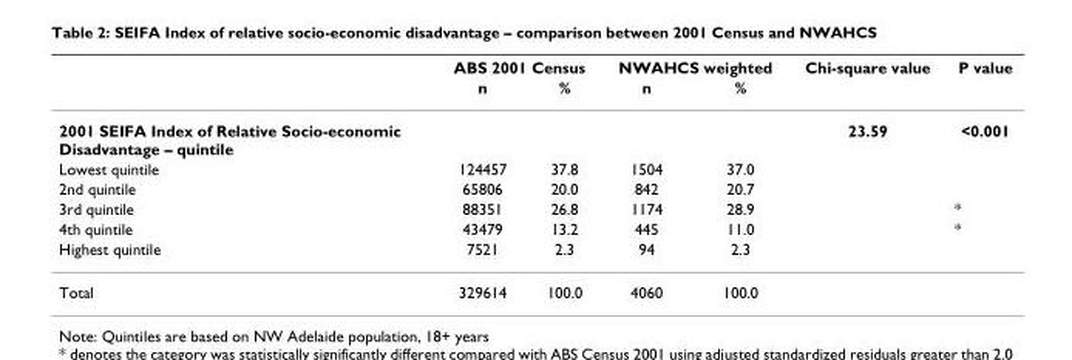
<table><thead><tr><td rowspan="2"></td><td colspan="2">ABS 2001 Census</td><td colspan="2">NWAHCS weighted</td><td rowspan="2">Chi-square value</td><td rowspan="2">P value</td></tr><tr><td>n</td><td>%</td><td>n</td><td>%</td></tr></thead><tbody><tr><td>2001 SEIFA Index of Relative Socio-economic Disadvantage – quintile</td><td></td><td></td><td></td><td></td><td>23.59</td><td>&lt;0.001</td></tr><tr><td>Lowest quintile</td><td>124457</td><td>37.8</td><td>1504</td><td>37.0</td><td></td><td></td></tr><tr><td>2nd quintile</td><td>65806</td><td>20.0</td><td>842</td><td>20.7</td><td></td><td></td></tr><tr><td>3rd quintile</td><td>88351</td><td>26.8</td><td>1174</td><td>28.9</td><td></td><td>*</td></tr><tr><td>4th quintile</td><td>43479</td><td>13.2</td><td>445</td><td>11.0</td><td></td><td>*</td></tr><tr><td>Highest quintile</td><td>7521</td><td>2.3</td><td>94</td><td>2.3</td><td></td><td></td></tr><tr><td>Total</td><td>329614</td><td>100.0</td><td>4060</td><td>100.0</td><td></td><td></td></tr></tbody></table>